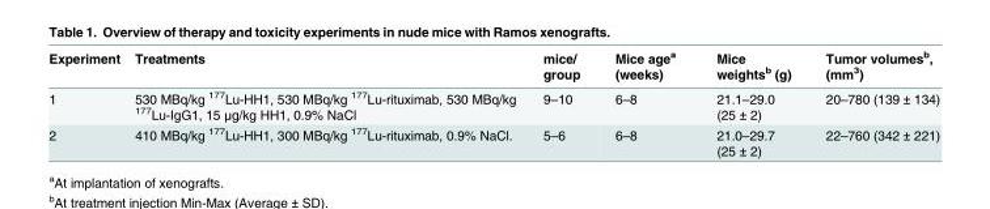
<table><thead><tr><td>Experiment</td><td>Treatments</td><td>mice/ group</td><td>Mice age<sup>a</sup> (weeks)</td><td>Mice weights<sup>b</sup> (g)</td><td>Tumor volumes<sup>b</sup>, (mm<sup>3</sup>)</td></tr></thead><tbody><tr><td>1</td><td>530 MBq/kg <sup>177</sup>Lu-HH1, 530 MBq/kg <sup>177</sup>Lu-rituximab, 530 MBq/kg <sup>177</sup>Lu-IgG1, 15 μg/kg HH1, 0.9% NaCl</td><td>9–10</td><td>6–8</td><td>21.1–29.0 (25 ± 2)</td><td>20–780 (139 ± 134)</td></tr><tr><td>2</td><td>410 MBq/kg <sup>177</sup>Lu-HH1, 300 MBq/kg <sup>177</sup>Lu-rituximab, 0.9% NaCl.</td><td>5–6</td><td>6–8</td><td>21.0–29.7 (25 ± 2)</td><td>22–760 (342 ± 221)</td></tr></tbody></table>